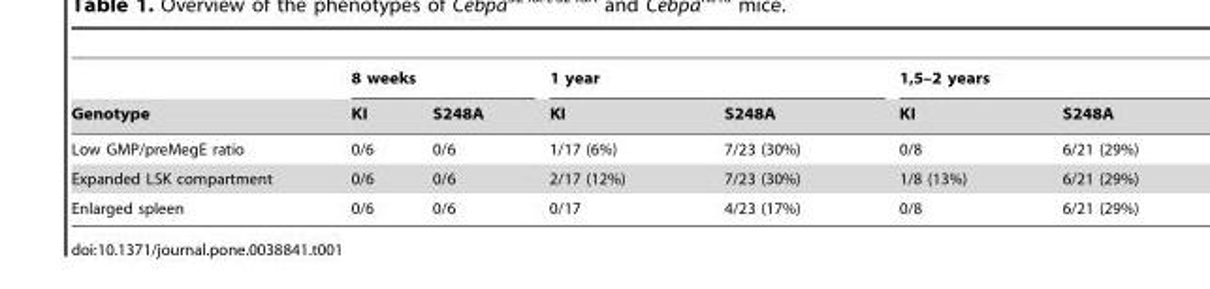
<table><thead><tr><td rowspan="2">Genotype</td><td colspan="2">8 weeks</td><td colspan="2">1 year</td><td colspan="2">1,5–2 years</td></tr><tr><td>KI</td><td>S248A</td><td>KI</td><td>S248A</td><td>KI</td><td>S248A</td></tr></thead><tbody><tr><td>Low GMP/preMegE ratio</td><td>0/6</td><td>0/6</td><td>1/17 (6%)</td><td>7/23 (30%)</td><td>0/8</td><td>6/21 (29%)</td></tr><tr><td>Expanded LSK compartment</td><td>0/6</td><td>0/6</td><td>2/17 (12%)</td><td>7/23 (30%)</td><td>1/8 (13%)</td><td>6/21 (29%)</td></tr><tr><td>Enlarged spleen</td><td>0/6</td><td>0/6</td><td>0/17</td><td>4/23 (17%)</td><td>0/8</td><td>6/21 (29%)</td></tr></tbody></table>